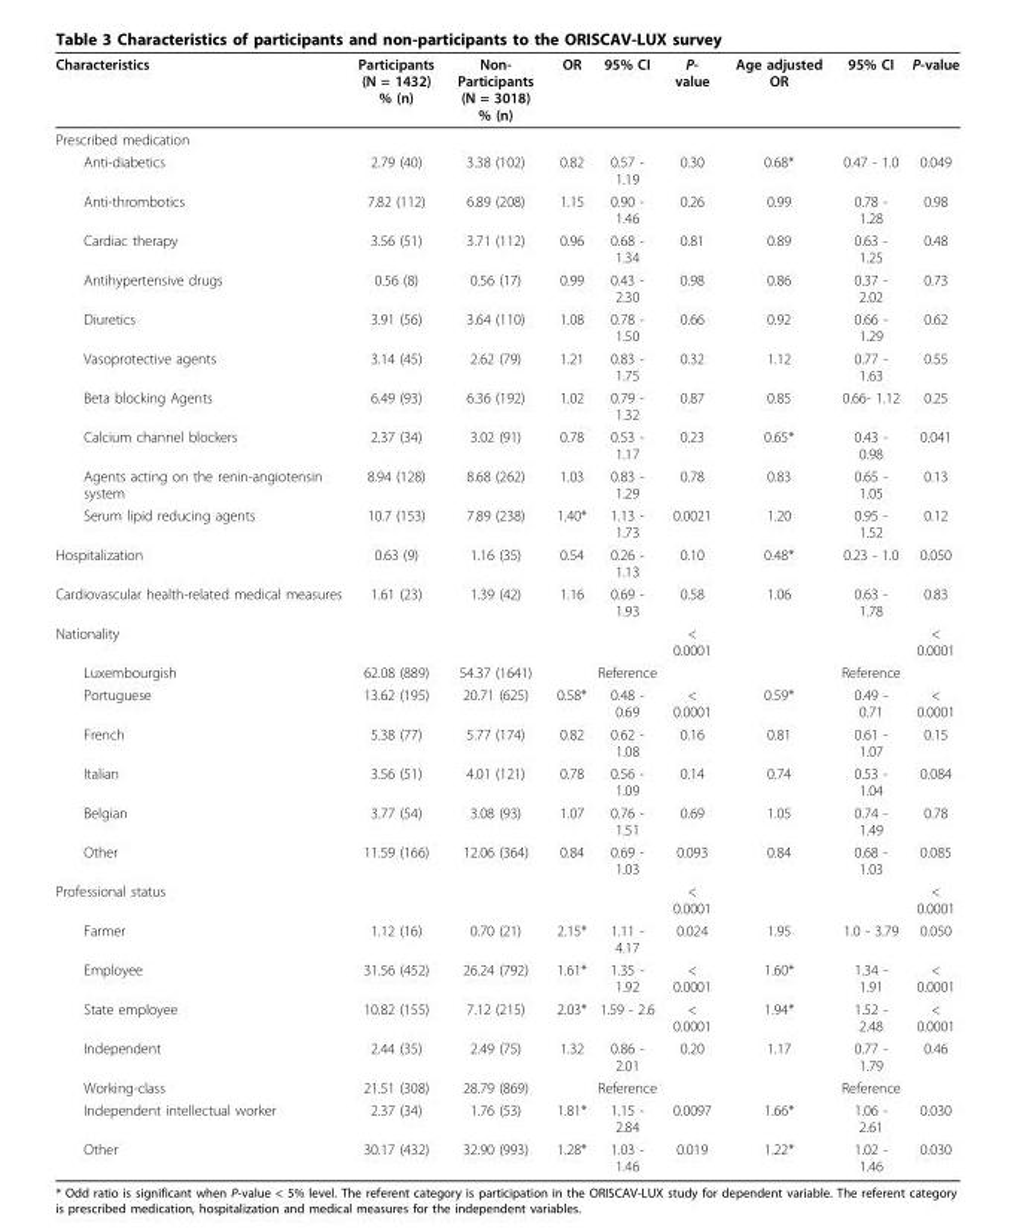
<table><thead><tr><td>Characteristics</td><td>Participants (N = 1432) % (n)</td><td>Non- Participants (N = 3018) % (n)</td><td>OR</td><td>95% CI</td><td>P- value</td><td>Age adjusted OR</td><td>95% CI</td><td>P-value</td></tr></thead><tbody><tr><td colspan="9">Prescribed medication</td></tr><tr><td>Anti-diabetics</td><td>2.79 (40)</td><td>3.38 (102)</td><td>0.82</td><td>0.57 - 1.19</td><td>0.30</td><td>0.68*</td><td>0.47 - 1.0</td><td>0.049</td></tr><tr><td>Anti-thrombotics</td><td>7.82 (112)</td><td>6.89 (208)</td><td>1.15</td><td>0.90 - 1.46</td><td>0.26</td><td>0.99</td><td>0.78 - 1.28</td><td>0.98</td></tr><tr><td>Cardiac therapy</td><td>3.56 (51)</td><td>3.71 (112)</td><td>0.96</td><td>0.68 - 1.34</td><td>0.81</td><td>0.89</td><td>0.63 - 1.25</td><td>0.48</td></tr><tr><td>Antihypertensive drugs</td><td>0.56 (8)</td><td>0.56 (17)</td><td>0.99</td><td>0.43 - 2.30</td><td>0.98</td><td>0.86</td><td>0.37 - 2.02</td><td>0.73</td></tr><tr><td>Diuretics</td><td>3.91 (56)</td><td>3.64 (110)</td><td>1.08</td><td>0.78 - 1.50</td><td>0.66</td><td>0.92</td><td>0.66 - 1.29</td><td>0.62</td></tr><tr><td>Vasoprotective agents</td><td>3.14 (45)</td><td>2.62 (79)</td><td>1.21</td><td>0.83 - 1.75</td><td>0.32</td><td>1.12</td><td>0.77 - 1.63</td><td>0.55</td></tr><tr><td>Beta blocking Agents</td><td>6.49 (93)</td><td>6.36 (192)</td><td>1.02</td><td>0.79 - 1.32</td><td>0.87</td><td>0.85</td><td>0.66- 1.12</td><td>0.25</td></tr><tr><td>Calcium channel blockers</td><td>2.37 (34)</td><td>3.02 (91)</td><td>0.78</td><td>0.53 - 1.17</td><td>0.23</td><td>0.65*</td><td>0.43 - 0.98</td><td>0.041</td></tr><tr><td>Agents acting on the renin-angiotensin system</td><td>8.94 (128)</td><td>8.68 (262)</td><td>1.03</td><td>0.83 - 1.29</td><td>0.78</td><td>0.83</td><td>0.65 - 1.05</td><td>0.13</td></tr><tr><td>Serum lipid reducing agents</td><td>10.7 (153)</td><td>7.89 (238)</td><td>1.40*</td><td>1.13 - 1.73</td><td>0.0021</td><td>1.20</td><td>0.95 - 1.52</td><td>0.12</td></tr><tr><td>Hospitalization</td><td>0.63 (9)</td><td>1.16 (35)</td><td>0.54</td><td>0.26 - 1.13</td><td>0.10</td><td>0.48*</td><td>0.23 - 1.0</td><td>0.050</td></tr><tr><td>Cardiovascular health-related medical measures</td><td>1.61 (23)</td><td>1.39 (42)</td><td>1.16</td><td>0.69 - 1.93</td><td>0.58</td><td>1.06</td><td>0.63 - 1.78</td><td>0.83</td></tr><tr><td>Nationality</td><td></td><td></td><td></td><td></td><td>&lt; 0.0001</td><td></td><td></td><td>&lt; 0.0001</td></tr><tr><td>Luxembourgish</td><td>62.08 (889)</td><td>54.37 (1641)</td><td></td><td>Reference</td><td></td><td></td><td>Reference</td><td></td></tr><tr><td>Portuguese</td><td>13.62 (195)</td><td>20.71 (625)</td><td>0.58*</td><td>0.48 - 0.69</td><td>&lt; 0.0001</td><td>0.59*</td><td>0.49 - 0.71</td><td>&lt; 0.0001</td></tr><tr><td>French</td><td>5.38 (77)</td><td>5.77 (174)</td><td>0.82</td><td>0.62 - 1.08</td><td>0.16</td><td>0.81</td><td>0.61 - 1.07</td><td>0.15</td></tr><tr><td>Italian</td><td>3.56 (51)</td><td>4.01 (121)</td><td>0.78</td><td>0.56 - 1.09</td><td>0.14</td><td>0.74</td><td>0.53 - 1.04</td><td>0.084</td></tr><tr><td>Belgian</td><td>3.77 (54)</td><td>3.08 (93)</td><td>1.07</td><td>0.76 - 1.51</td><td>0.69</td><td>1.05</td><td>0.74 - 1.49</td><td>0.78</td></tr><tr><td>Other</td><td>11.59 (166)</td><td>12.06 (364)</td><td>0.84</td><td>0.69 - 1.03</td><td>0.093</td><td>0.84</td><td>0.68 - 1.03</td><td>0.085</td></tr><tr><td>Professional status</td><td></td><td></td><td></td><td></td><td>&lt; 0.0001</td><td></td><td></td><td>&lt; 0.0001</td></tr><tr><td>Farmer</td><td>1.12 (16)</td><td>0.70 (21)</td><td>2.15*</td><td>1.11 - 4.17</td><td>0.024</td><td>1.95</td><td>1.0 - 3.79</td><td>0.050</td></tr><tr><td>Employee</td><td>31.56 (452)</td><td>26.24 (792)</td><td>1.61*</td><td>1.35 - 1.92</td><td>&lt; 0.0001</td><td>1.60*</td><td>1.34 - 1.91</td><td>&lt; 0.0001</td></tr><tr><td>State employee</td><td>10.82 (155)</td><td>7.12 (215)</td><td>2.03*</td><td>1.59 - 2.6</td><td>&lt; 0.0001</td><td>1.94*</td><td>1.52 - 2.48</td><td>&lt; 0.0001</td></tr><tr><td>Independent</td><td>2.44 (35)</td><td>2.49 (75)</td><td>1.32</td><td>0.86 - 2.01</td><td>0.20</td><td>1.17</td><td>0.77 - 1.79</td><td>0.46</td></tr><tr><td>Working-class</td><td>21.51 (308)</td><td>28.79 (869)</td><td></td><td>Reference</td><td></td><td></td><td>Reference</td><td></td></tr><tr><td>Independent intellectual worker</td><td>2.37 (34)</td><td>1.76 (53)</td><td>1.81*</td><td>1.15 - 2.84</td><td>0.0097</td><td>1.66*</td><td>1.06 - 2.61</td><td>0.030</td></tr><tr><td>Other</td><td>30.17 (432)</td><td>32.90 (993)</td><td>1.28*</td><td>1.03 - 1.46</td><td>0.019</td><td>1.22*</td><td>1.02 - 1.46</td><td>0.030</td></tr></tbody></table>